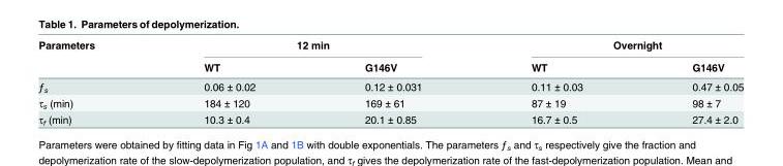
<table><thead><tr><td rowspan="2">Parameters</td><td colspan="2">12 min</td><td colspan="2">Overnight</td></tr><tr><td>WT</td><td>G146V</td><td>WT</td><td>G146V</td></tr></thead><tbody><tr><td>ƒ<sub>s</sub></td><td>0.06 ± 0.02</td><td>0.12 ± 0.031</td><td>0.11 ± 0.03</td><td>0.47 ± 0.05</td></tr><tr><td>τ<sub>s</sub> (min)</td><td>184 ± 120</td><td>169 ± 61</td><td>87 ± 19</td><td>98 ± 7</td></tr><tr><td>τ<sub>f</sub> (min)</td><td>10.3 ± 0.4</td><td>20.1 ± 0.85</td><td>16.7 ± 0.5</td><td>27.4 ± 2.0</td></tr></tbody></table>